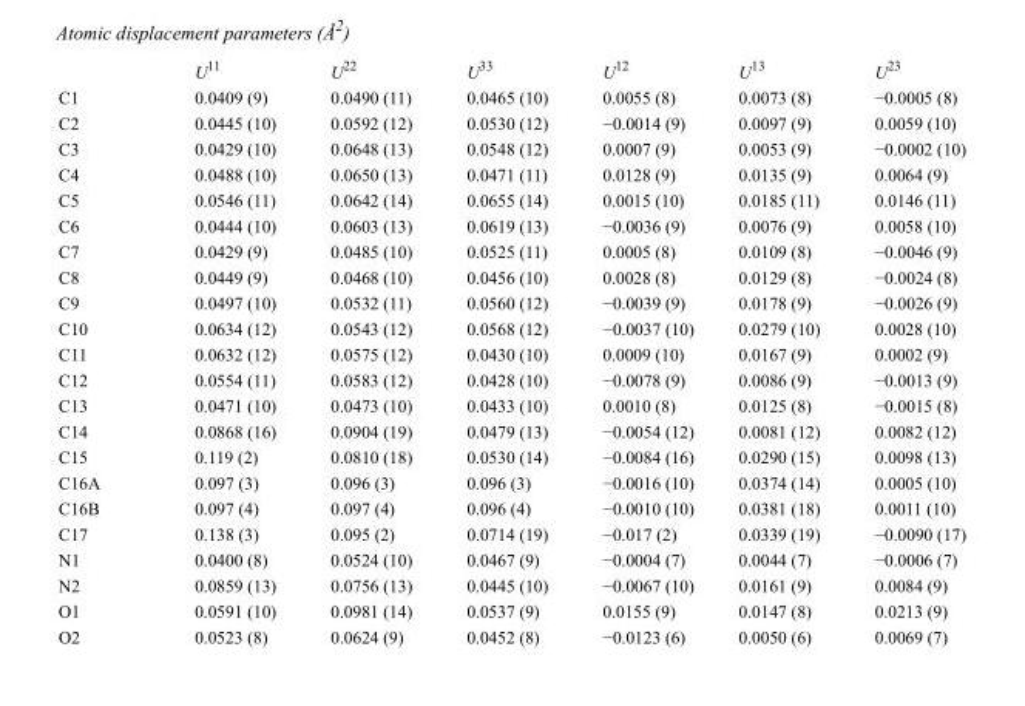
<table><thead><tr><td></td><td>U<sup>11</sup></td><td>U<sup>22</sup></td><td>U<sup>33</sup></td><td>U<sup>12</sup></td><td>U<sup>13</sup></td><td>U<sup>23</sup></td></tr></thead><tbody><tr><td>C1</td><td>0.0409 (9)</td><td>0.0490 (11)</td><td>0.0465 (10)</td><td>0.0055 (8)</td><td>0.0073 (8)</td><td>−0.0005 (8)</td></tr><tr><td>C2</td><td>0.0445 (10)</td><td>0.0592 (12)</td><td>0.0530 (12)</td><td>−0.0014 (9)</td><td>0.0097 (9)</td><td>0.0059 (10)</td></tr><tr><td>C3</td><td>0.0429 (10)</td><td>0.0648 (13)</td><td>0.0548 (12)</td><td>0.0007 (9)</td><td>0.0053 (9)</td><td>−0.0002 (10)</td></tr><tr><td>C4</td><td>0.0488 (10)</td><td>0.0650 (13)</td><td>0.0471 (11)</td><td>0.0128 (9)</td><td>0.0135 (9)</td><td>0.0064 (9)</td></tr><tr><td>C5</td><td>0.0546 (11)</td><td>0.0642 (14)</td><td>0.0655 (14)</td><td>0.0015 (10)</td><td>0.0185 (11)</td><td>0.0146 (11)</td></tr><tr><td>C6</td><td>0.0444 (10)</td><td>0.0603 (13)</td><td>0.0619 (13)</td><td>−0.0036 (9)</td><td>0.0076 (9)</td><td>0.0058 (10)</td></tr><tr><td>C7</td><td>0.0429 (9)</td><td>0.0485 (10)</td><td>0.0525 (11)</td><td>0.0005 (8)</td><td>0.0109 (8)</td><td>−0.0046 (9)</td></tr><tr><td>C8</td><td>0.0449 (9)</td><td>0.0468 (10)</td><td>0.0456 (10)</td><td>0.0028 (8)</td><td>0.0129 (8)</td><td>−0.0024 (8)</td></tr><tr><td>C9</td><td>0.0497 (10)</td><td>0.0532 (11)</td><td>0.0560 (12)</td><td>−0.0039 (9)</td><td>0.0178 (9)</td><td>−0.0026 (9)</td></tr><tr><td>C10</td><td>0.0634 (12)</td><td>0.0543 (12)</td><td>0.0568 (12)</td><td>−0.0037 (10)</td><td>0.0279 (10)</td><td>0.0028 (10)</td></tr><tr><td>C11</td><td>0.0632 (12)</td><td>0.0575 (12)</td><td>0.0430 (10)</td><td>0.0009 (10)</td><td>0.0167 (9)</td><td>0.0002 (9)</td></tr><tr><td>C12</td><td>0.0554 (11)</td><td>0.0583 (12)</td><td>0.0428 (10)</td><td>−0.0078 (9)</td><td>0.0086 (9)</td><td>−0.0013 (9)</td></tr><tr><td>C13</td><td>0.0471 (10)</td><td>0.0473 (10)</td><td>0.0433 (10)</td><td>0.0010 (8)</td><td>0.0125 (8)</td><td>−0.0015 (8)</td></tr><tr><td>C14</td><td>0.0868 (16)</td><td>0.0904 (19)</td><td>0.0479 (13)</td><td>−0.0054 (12)</td><td>0.0081 (12)</td><td>0.0082 (12)</td></tr><tr><td>C15</td><td>0.119 (2)</td><td>0.0810 (18)</td><td>0.0530 (14)</td><td>−0.0084 (16)</td><td>0.0290 (15)</td><td>0.0098 (13)</td></tr><tr><td>C16A</td><td>0.097 (3)</td><td>0.096 (3)</td><td>0.096 (3)</td><td>−0.0016 (10)</td><td>0.0374 (14)</td><td>0.0005 (10)</td></tr><tr><td>C16B</td><td>0.097 (4)</td><td>0.097 (4)</td><td>0.096 (4)</td><td>−0.0010 (10)</td><td>0.0381 (18)</td><td>0.0011 (10)</td></tr><tr><td>C17</td><td>0.138 (3)</td><td>0.095 (2)</td><td>0.0714 (19)</td><td>−0.017 (2)</td><td>0.0339 (19)</td><td>−0.0090 (17)</td></tr><tr><td>N1</td><td>0.0400 (8)</td><td>0.0524 (10)</td><td>0.0467 (9)</td><td>−0.0004 (7)</td><td>0.0044 (7)</td><td>−0.0006 (7)</td></tr><tr><td>N2</td><td>0.0859 (13)</td><td>0.0756 (13)</td><td>0.0445 (10)</td><td>−0.0067 (10)</td><td>0.0161 (9)</td><td>0.0084 (9)</td></tr><tr><td>O1</td><td>0.0591 (10)</td><td>0.0981 (14)</td><td>0.0537 (9)</td><td>0.0155 (9)</td><td>0.0147 (8)</td><td>0.0213 (9)</td></tr><tr><td>O2</td><td>0.0523 (8)</td><td>0.0624 (9)</td><td>0.0452 (8)</td><td>−0.0123 (6)</td><td>0.0050 (6)</td><td>0.0069 (7)</td></tr></tbody></table>